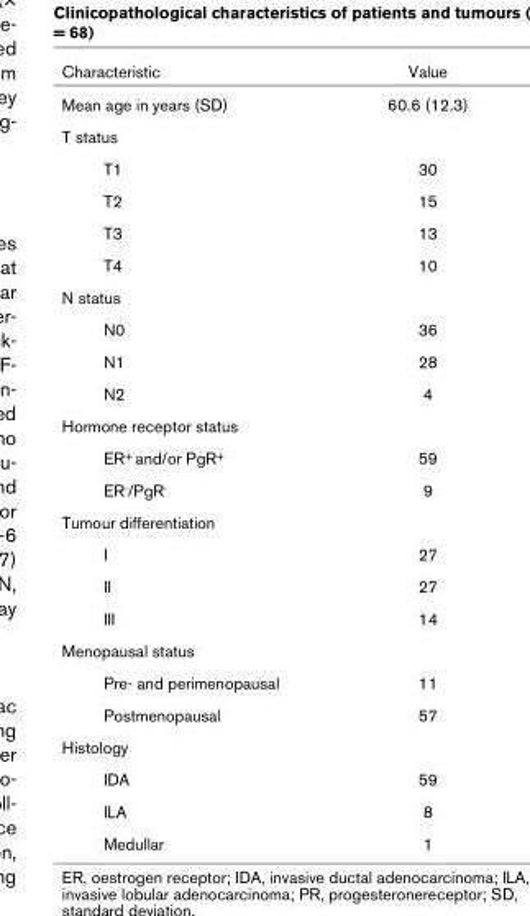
<table><thead><tr><td>Characteristic</td><td>Value</td></tr></thead><tbody><tr><td>Mean age in years (SD)</td><td>60.6 (12.3)</td></tr><tr><td colspan="2">T status</td></tr><tr><td>T1</td><td>30</td></tr><tr><td>T2</td><td>15</td></tr><tr><td>T3</td><td>13</td></tr><tr><td>T4</td><td>10</td></tr><tr><td colspan="2">N status</td></tr><tr><td>N0</td><td>36</td></tr><tr><td>N1</td><td>28</td></tr><tr><td>N2</td><td>4</td></tr><tr><td colspan="2">Hormone receptor status</td></tr><tr><td>ER+ and/or PgR+</td><td>59</td></tr><tr><td>ER-/PgR-</td><td>9</td></tr><tr><td colspan="2">Tumour differentiation</td></tr><tr><td>I</td><td>27</td></tr><tr><td>II</td><td>27</td></tr><tr><td>III</td><td>14</td></tr><tr><td colspan="2">Menopausal status</td></tr><tr><td>Pre- and perimenopausal</td><td>11</td></tr><tr><td>Postmenopausal</td><td>57</td></tr><tr><td colspan="2">Histology</td></tr><tr><td>IDA</td><td>59</td></tr><tr><td>ILA</td><td>8</td></tr><tr><td>Medullar</td><td>1</td></tr></tbody></table>